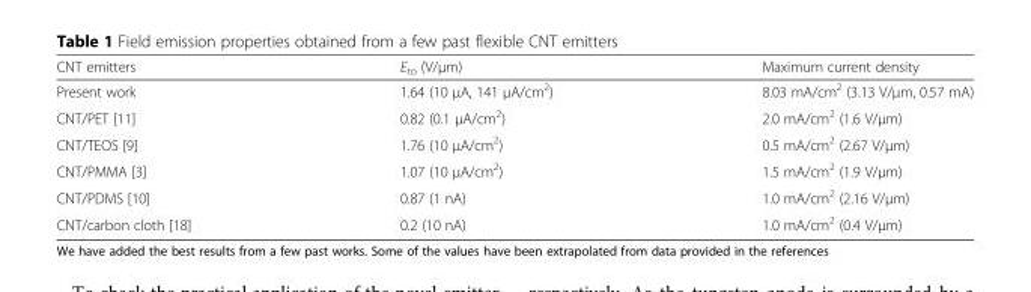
<table><thead><tr><td>CNT emitters</td><td>Eto (V/μm)</td><td>Maximum current density</td></tr></thead><tbody><tr><td>Present work</td><td>1.64 (10 μA, 141 μA/cm2)</td><td>8.03 mA/cm2 (3.13 V/μm, 0.57 mA)</td></tr><tr><td>CNT/PET [11]</td><td>0.82 (0.1 μA/cm2)</td><td>2.0 mA/cm2 (1.6 V/μm)</td></tr><tr><td>CNT/TEOS [9]</td><td>1.76 (10 μA/cm2)</td><td>0.5 mA/cm2 (2.67 V/μm)</td></tr><tr><td>CNT/PMMA [3]</td><td>1.07 (10 μA/cm2)</td><td>1.5 mA/cm2 (1.9 V/μm)</td></tr><tr><td>CNT/PDMS [10]</td><td>0.87 (1 nA)</td><td>1.0 mA/cm2 (2.16 V/μm)</td></tr><tr><td>CNT/carbon cloth [18]</td><td>0.2 (10 nA)</td><td>1.0 mA/cm2 (0.4 V/μm)</td></tr></tbody></table>